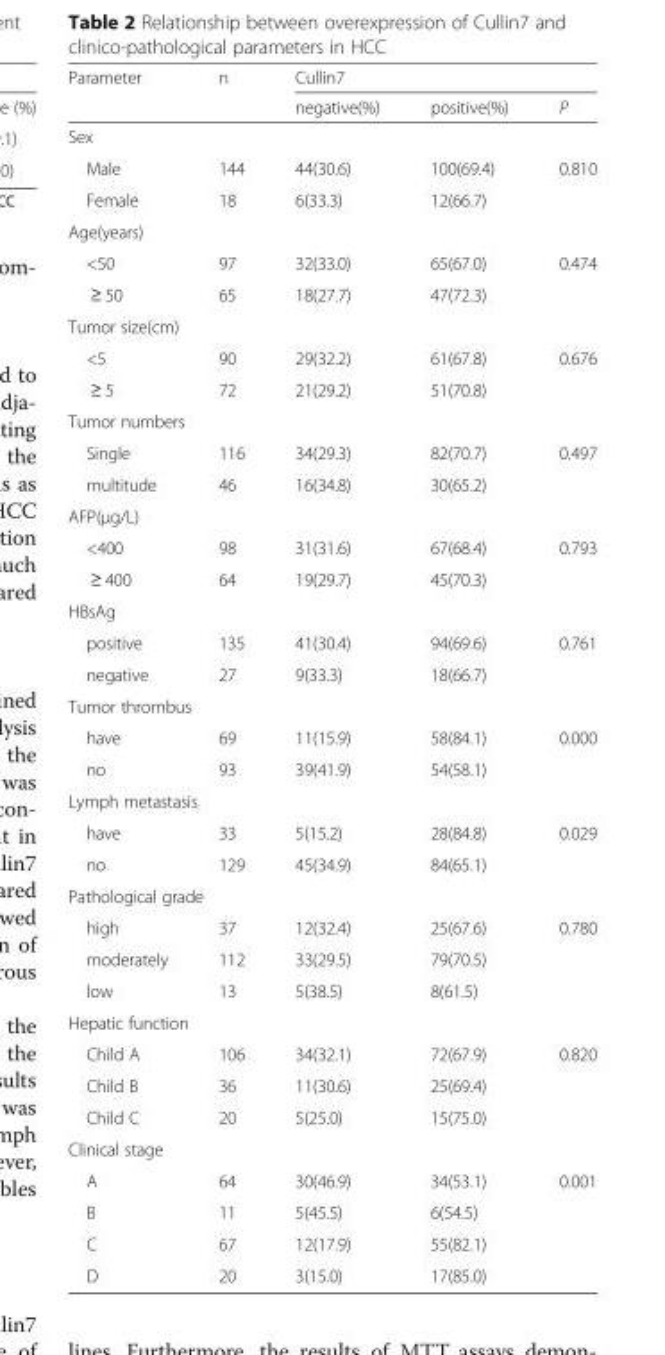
<table><thead><tr><td rowspan="2">Parameter</td><td rowspan="2">n</td><td colspan="3">Cullin7</td></tr><tr><td>negative(%)</td><td>positive(%)</td><td>P</td></tr></thead><tbody><tr><td colspan="5">Sex</td></tr><tr><td>Male</td><td>144</td><td>44(30.6)</td><td>100(69.4)</td><td>0.810</td></tr><tr><td>Female</td><td>18</td><td>6(33.3)</td><td>12(66.7)</td><td></td></tr><tr><td colspan="5">Age(years)</td></tr><tr><td>&lt;50</td><td>97</td><td>32(33.0)</td><td>65(67.0)</td><td>0.474</td></tr><tr><td>≥ 50</td><td>65</td><td>18(27.7)</td><td>47(72.3)</td><td></td></tr><tr><td colspan="5">Tumor size(cm)</td></tr><tr><td>&lt;5</td><td>90</td><td>29(32.2)</td><td>61(67.8)</td><td>0.676</td></tr><tr><td>≥ 5</td><td>72</td><td>21(29.2)</td><td>51(70.8)</td><td></td></tr><tr><td colspan="5">Tumor numbers</td></tr><tr><td>Single</td><td>116</td><td>34(29.3)</td><td>82(70.7)</td><td>0.497</td></tr><tr><td>multitude</td><td>46</td><td>16(34.8)</td><td>30(65.2)</td><td></td></tr><tr><td colspan="5">AFP(μg/L)</td></tr><tr><td>&lt;400</td><td>98</td><td>31(31.6)</td><td>67(68.4)</td><td>0.793</td></tr><tr><td>≥ 400</td><td>64</td><td>19(29.7)</td><td>45(70.3)</td><td></td></tr><tr><td colspan="5">HBsAg</td></tr><tr><td>positive</td><td>135</td><td>41(30.4)</td><td>94(69.6)</td><td>0.761</td></tr><tr><td>negative</td><td>27</td><td>9(33.3)</td><td>18(66.7)</td><td></td></tr><tr><td colspan="5">Tumor thrombus</td></tr><tr><td>have</td><td>69</td><td>11(15.9)</td><td>58(84.1)</td><td>0.000</td></tr><tr><td>no</td><td>93</td><td>39(41.9)</td><td>54(58.1)</td><td></td></tr><tr><td colspan="5">Lymph metastasis</td></tr><tr><td>have</td><td>33</td><td>5(15.2)</td><td>28(84.8)</td><td>0.029</td></tr><tr><td>no</td><td>129</td><td>45(34.9)</td><td>84(65.1)</td><td></td></tr><tr><td colspan="5">Pathological grade</td></tr><tr><td>high</td><td>37</td><td>12(32.4)</td><td>25(67.6)</td><td>0.780</td></tr><tr><td>moderately</td><td>112</td><td>33(29.5)</td><td>79(70.5)</td><td></td></tr><tr><td>low</td><td>13</td><td>5(38.5)</td><td>8(61.5)</td><td></td></tr><tr><td colspan="5">Hepatic function</td></tr><tr><td>Child A</td><td>106</td><td>34(32.1)</td><td>72(67.9)</td><td>0.820</td></tr><tr><td>Child B</td><td>36</td><td>11(30.6)</td><td>25(69.4)</td><td></td></tr><tr><td>Child C</td><td>20</td><td>5(25.0)</td><td>15(75.0)</td><td></td></tr><tr><td colspan="5">Clinical stage</td></tr><tr><td>A</td><td>64</td><td>30(46.9)</td><td>34(53.1)</td><td>0.001</td></tr><tr><td>B</td><td>11</td><td>5(45.5)</td><td>6(54.5)</td><td></td></tr><tr><td>C</td><td>67</td><td>12(17.9)</td><td>55(82.1)</td><td></td></tr><tr><td>D</td><td>20</td><td>3(15.0)</td><td>17(85.0)</td><td></td></tr></tbody></table>